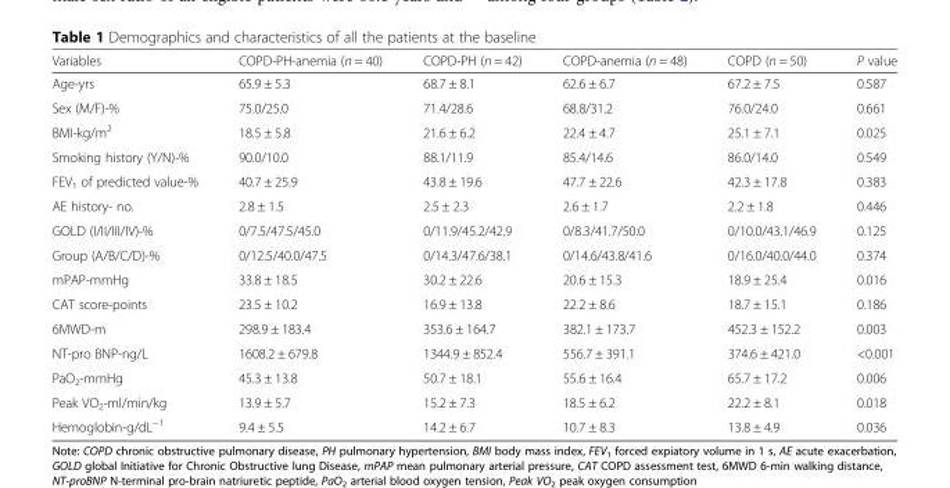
<table><thead><tr><td>Variables</td><td>COPD-PH-anemia (n = 40)</td><td>COPD-PH (n = 42)</td><td>COPD-anemia (n = 48)</td><td>COPD (n = 50)</td><td>P value</td></tr></thead><tbody><tr><td>Age-yrs</td><td>65.9 ± 5.3</td><td>68.7 ± 8.1</td><td>62.6 ± 6.7</td><td>67.2 ± 7.5</td><td>0.587</td></tr><tr><td>Sex (M/F)-%</td><td>75.0/25.0</td><td>71.4/28.6</td><td>68.8/31.2</td><td>76.0/24.0</td><td>0.661</td></tr><tr><td>BMI-kg/m<sup>2</sup></td><td>18.5 ± 5.8</td><td>21.6 ± 6.2</td><td>22.4 ± 4.7</td><td>25.1 ± 7.1</td><td>0.025</td></tr><tr><td>Smoking history (Y/N)-%</td><td>90.0/10.0</td><td>88.1/11.9</td><td>85.4/14.6</td><td>86.0/14.0</td><td>0.549</td></tr><tr><td>FEV<sub>1</sub> of predicted value-%</td><td>40.7 ± 25.9</td><td>43.8 ± 19.6</td><td>47.7 ± 22.6</td><td>42.3 ± 17.8</td><td>0.383</td></tr><tr><td>AE history- no.</td><td>2.8 ± 1.5</td><td>2.5 ± 2.3</td><td>2.6 ± 1.7</td><td>2.2 ± 1.8</td><td>0.446</td></tr><tr><td>GOLD (I/II/III/IV)-%</td><td>0/7.5/47.5/45.0</td><td>0/11.9/45.2/42.9</td><td>0/8.3/41.7/50.0</td><td>0/10.0/43.1/46.9</td><td>0.125</td></tr><tr><td>Group (A/B/C/D)-%</td><td>0/12.5/40.0/47.5</td><td>0/14.3/47.6/38.1</td><td>0/14.6/43.8/41.6</td><td>0/16.0/40.0/44.0</td><td>0.374</td></tr><tr><td>mPAP-mmHg</td><td>33.8 ± 18.5</td><td>30.2 ± 22.6</td><td>20.6 ± 15.3</td><td>18.9 ± 25.4</td><td>0.016</td></tr><tr><td>CAT score-points</td><td>23.5 ± 10.2</td><td>16.9 ± 13.8</td><td>22.2 ± 8.6</td><td>18.7 ± 15.1</td><td>0.186</td></tr><tr><td>6MWD-m</td><td>298.9 ± 183.4</td><td>353.6 ± 164.7</td><td>382.1 ± 173.7</td><td>452.3 ± 152.2</td><td>0.003</td></tr><tr><td>NT-pro BNP-ng/L</td><td>1608.2 ± 679.8</td><td>1344.9 ± 852.4</td><td>556.7 ± 391.1</td><td>374.6 ± 421.0</td><td>&lt;0.001</td></tr><tr><td>PaO<sub>2</sub>-mmHg</td><td>45.3 ± 13.8</td><td>50.7 ± 18.1</td><td>55.6 ± 16.4</td><td>65.7 ± 17.2</td><td>0.006</td></tr><tr><td>Peak VO<sub>2</sub>-ml/min/kg</td><td>13.9 ± 5.7</td><td>15.2 ± 7.3</td><td>18.5 ± 6.2</td><td>22.2 ± 8.1</td><td>0.018</td></tr><tr><td>Hemoglobin-g/dL<sup>−1</sup></td><td>9.4 ± 5.5</td><td>14.2 ± 6.7</td><td>10.7 ± 8.3</td><td>13.8 ± 4.9</td><td>0.036</td></tr></tbody></table>